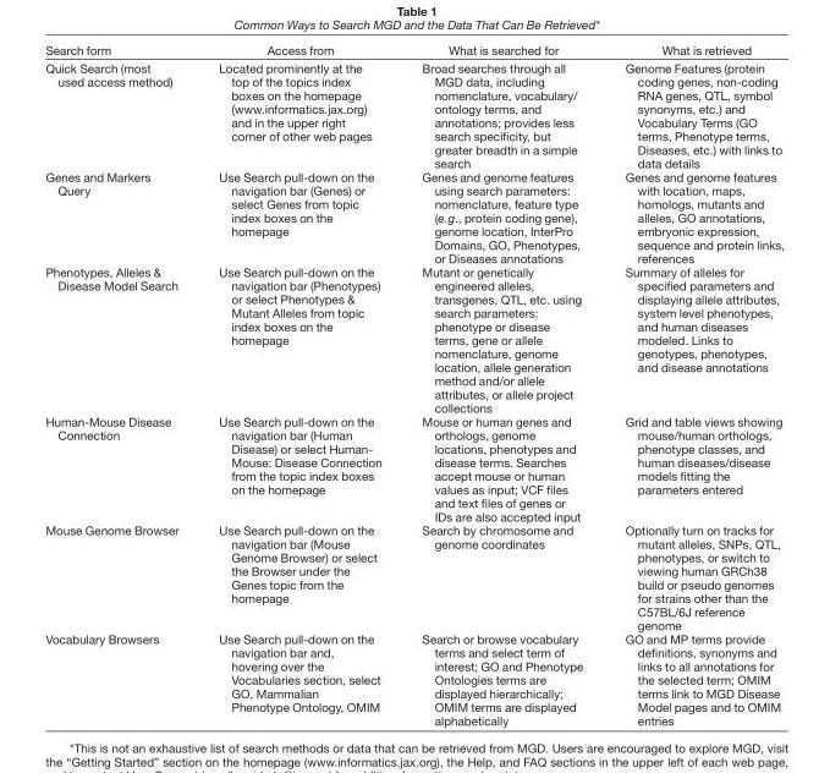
<table><thead><tr><td>Search form</td><td>Access from</td><td>What is searched for</td><td>What is retrieved</td></tr></thead><tbody><tr><td>Quick Search (most used access method)</td><td>Located prominently at the top of the topics index boxes on the homepage (www.informatics.jax.org) and in the upper right corner of other web pages</td><td>Broad searches through all MGD data, including nomenclature, vocabulary/ ontology terms, and annotations; provides less search specificity, but greater breadth in a simple search</td><td>Genome Features (protein coding genes, non-coding RNA genes, QTL, symbol synonyms, etc.) and Vocabulary Terms (GO terms, Phenotype terms, Diseases, etc.) with links to data details</td></tr><tr><td>Genes and Markers Query</td><td>Use Search pull-down on the navigation bar (Genes) or select Genes from topic index boxes on the homepage</td><td>Genes and genome features using search parameters: nomenclature, feature type (e.g., protein coding gene), genome location, InterPro Domains, GO, Phenotypes, or Diseases annotations</td><td>Genes and genome features with location, maps, homologs, mutants and alleles, GO annotations, embryonic expression, sequence and protein links, references</td></tr><tr><td>Phenotypes, Alleles &amp; Disease Model Search</td><td>Use Search pull-down on the navigation bar (Phenotypes) or select Phenotypes &amp; Mutant Alleles from topic index boxes on the homepage</td><td>Mutant or genetically engineered alleles, transgenes, QTL, etc. using search parameters: phenotype or disease terms, gene or allele nomenclature, genome location, allele generation method and/or allele attributes, or allele project collections</td><td>Summary of alleles for specified parameters and displaying allele attributes, system level phenotypes, and human diseases modeled. Links to genotypes, phenotypes, and disease annotations</td></tr><tr><td>Human-Mouse Disease Connection</td><td>Use Search pull-down on the navigation bar (Human Disease) or select Human- Mouse: Disease Connection from the topic index boxes on the homepage</td><td>Mouse or human genes and orthologs, genome locations, phenotypes and disease terms. Searches accept mouse or human values as input; VCF files and text files of genes or IDs are also accepted input</td><td>Grid and table views showing mouse/human orthologs, phenotype classes, and human diseases/disease models fitting the parameters entered</td></tr><tr><td>Mouse Genome Browser</td><td>Use Search pull-down on the navigation bar (Mouse Genome Browser) or select the Browser under the Genes topic from the homepage</td><td>Search by chromosome and genome coordinates</td><td>Optionally turn on tracks for mutant alleles, SNPs, QTL, phenotypes, or switch to viewing human GRCh38 build or pseudo genomes for strains other than the C57BL/6J reference genome</td></tr><tr><td>Vocabulary Browsers</td><td>Use Search pull-down on the navigation bar and, hovering over the Vocabularies section, select GO, Mammalian Phenotype Ontology, OMIM</td><td>Search or browse vocabulary terms and select term of interest; GO and Phenotype Ontologies terms are displayed hierarchically; OMIM terms are displayed alphabetically</td><td>GO and MP terms provide definitions, synonyms and links to all annotations for the selected term; OMIM terms link to MGD Disease Model pages and to OMIM entries</td></tr></tbody></table>